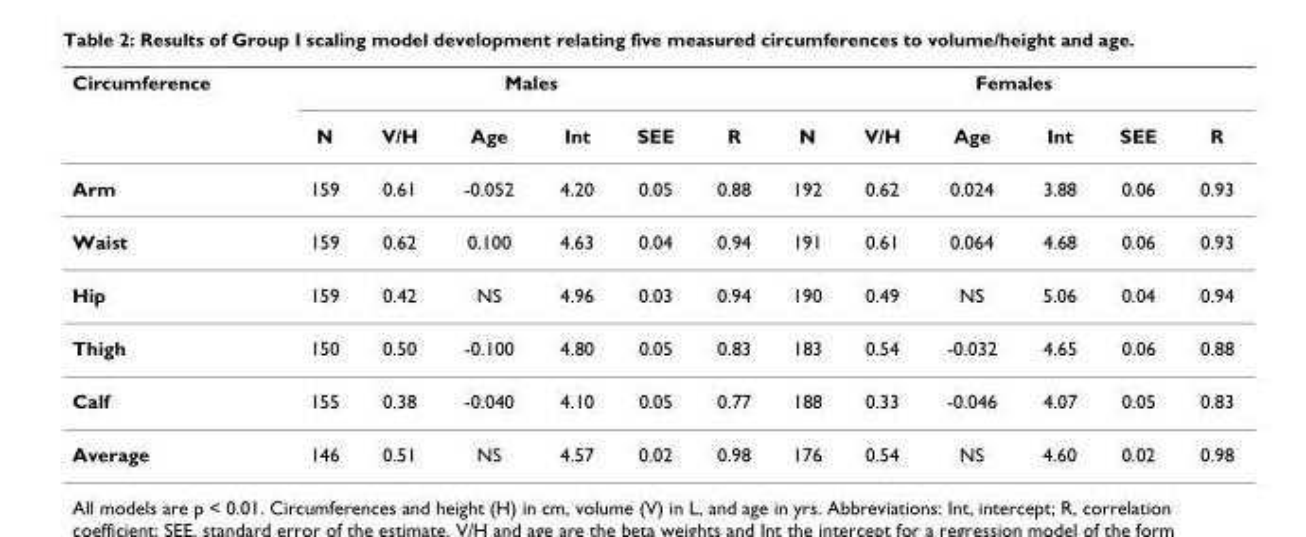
<table><thead><tr><td rowspan="2">Circumference</td><td colspan="6">Males</td><td colspan="6">Females</td></tr><tr><td>N</td><td>V/H</td><td>Age</td><td>Int</td><td>SEE</td><td>R</td><td>N</td><td>V/H</td><td>Age</td><td>Int</td><td>SEE</td><td>R</td></tr></thead><tbody><tr><td>Arm</td><td>159</td><td>0.61</td><td>-0.052</td><td>4.20</td><td>0.05</td><td>0.88</td><td>192</td><td>0.62</td><td>0.024</td><td>3.88</td><td>0.06</td><td>0.93</td></tr><tr><td>Waist</td><td>159</td><td>0.62</td><td>0.100</td><td>4.63</td><td>0.04</td><td>0.94</td><td>191</td><td>0.61</td><td>0.064</td><td>4.68</td><td>0.06</td><td>0.93</td></tr><tr><td>Hip</td><td>159</td><td>0.42</td><td>NS</td><td>4.96</td><td>0.03</td><td>0.94</td><td>190</td><td>0.49</td><td>NS</td><td>5.06</td><td>0.04</td><td>0.94</td></tr><tr><td>Thigh</td><td>150</td><td>0.50</td><td>-0.100</td><td>4.80</td><td>0.05</td><td>0.83</td><td>183</td><td>0.54</td><td>-0.032</td><td>4.65</td><td>0.06</td><td>0.88</td></tr><tr><td>Calf</td><td>155</td><td>0.38</td><td>-0.040</td><td>4.10</td><td>0.05</td><td>0.77</td><td>188</td><td>0.33</td><td>-0.046</td><td>4.07</td><td>0.05</td><td>0.83</td></tr><tr><td>Average</td><td>146</td><td>0.51</td><td>NS</td><td>4.57</td><td>0.02</td><td>0.98</td><td>176</td><td>0.54</td><td>NS</td><td>4.60</td><td>0.02</td><td>0.98</td></tr></tbody></table>